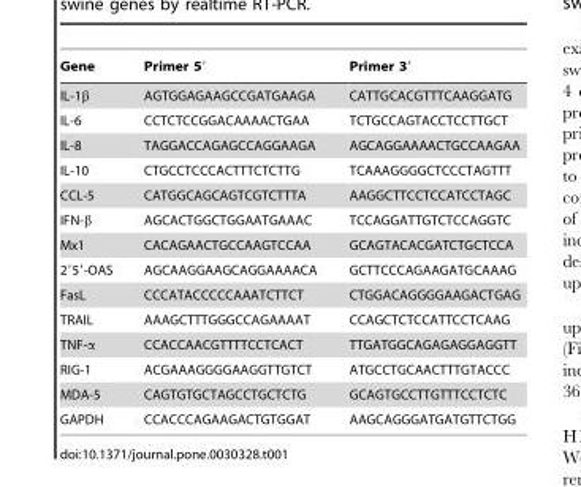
<table><thead><tr><td>Gene</td><td>Primer 5′</td><td>Primer 3′</td></tr></thead><tbody><tr><td>IL-1β</td><td>AGTGGAGAAGCCGATGAAGA</td><td>CATTGCACGTTTCAAGGATG</td></tr><tr><td>IL-6</td><td>CCTCTCCGGACAAAACTGAA</td><td>TCTGCCAGTACCTCCTTGCT</td></tr><tr><td>IL-8</td><td>TAGGACCAGAGCCAGGAAGA</td><td>AGCAGGAAAACTGCCAAGAA</td></tr><tr><td>IL-10</td><td>CTGCCTCCCACTTTCTCTTG</td><td>TCAAAGGGGCTCCCTAGTTT</td></tr><tr><td>CCL-5</td><td>CATGGCAGCAGTCGTCTTTA</td><td>AAGGCTTCCTCCATCCTAGC</td></tr><tr><td>IFN-β</td><td>AGCACTGGCTGGAATGAAAC</td><td>TCCAGGATTGTCTCCAGGTC</td></tr><tr><td>Mx1</td><td>CACAGAACTGCCAAGTCCAA</td><td>GCAGTACACGATCTGCTCCA</td></tr><tr><td>2′5′-OAS</td><td>AGCAAGGAAGCAGGAAAACA</td><td>GCTTCCCAGAAGATGCAAAG</td></tr><tr><td>FasL</td><td>CCCATACCCCCAAATCTTCT</td><td>CTGGACAGGGGAAGACTGAG</td></tr><tr><td>TRAIL</td><td>AAAGCTTTGGGCCAGAAAAT</td><td>CCAGCTCTCCATTCCTCAAG</td></tr><tr><td>TNF-α</td><td>CCACCAACGTTTTCCTCACT</td><td>TTGATGGCAGAGAGGAGGTT</td></tr><tr><td>RIG-1</td><td>ACGAAAGGGGAAGGTTGTCT</td><td>ATGCCTGCAACTTTGTACCC</td></tr><tr><td>MDA-5</td><td>CAGTGTGCTAGCCTGCTCTG</td><td>GCAGTGCCTTGTTTCCTCTC</td></tr><tr><td>GAPDH</td><td>CCACCCAGAAGACTGTGGAT</td><td>AAGCAGGGATGATGTTCTGG</td></tr></tbody></table>